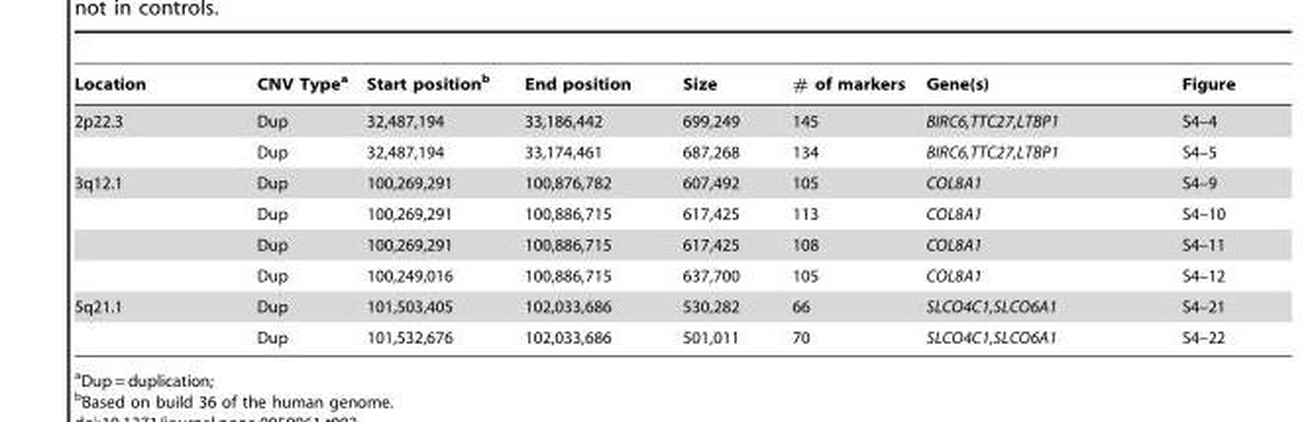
<table><thead><tr><td>Location</td><td>CNV Type<sup>a</sup></td><td>Start position<sup>b</sup></td><td>End position</td><td>Size</td><td># of markers</td><td>Gene(s)</td><td>Figure</td></tr></thead><tbody><tr><td rowspan="2">2p22.3</td><td>Dup</td><td>32,487,194</td><td>33,186,442</td><td>699,249</td><td>145</td><td>BIRC6,TTC27,LTBP1</td><td>S4–4</td></tr><tr><td>Dup</td><td>32,487,194</td><td>33,174,461</td><td>687,268</td><td>134</td><td>BIRC6,TTC27,LTBP1</td><td>S4–5</td></tr><tr><td rowspan="4">3q12.1</td><td>Dup</td><td>100,269,291</td><td>100,876,782</td><td>607,492</td><td>105</td><td>COL8A1</td><td>S4–9</td></tr><tr><td>Dup</td><td>100,269,291</td><td>100,886,715</td><td>617,425</td><td>113</td><td>COL8A1</td><td>S4–10</td></tr><tr><td>Dup</td><td>100,269,291</td><td>100,886,715</td><td>617,425</td><td>108</td><td>COL8A1</td><td>S4–11</td></tr><tr><td>Dup</td><td>100,249,016</td><td>100,886,715</td><td>637,700</td><td>105</td><td>COL8A1</td><td>S4–12</td></tr><tr><td rowspan="2">5q21.1</td><td>Dup</td><td>101,503,405</td><td>102,033,686</td><td>530,282</td><td>66</td><td>SLCO4C1,SLCO6A1</td><td>S4–21</td></tr><tr><td>Dup</td><td>101,532,676</td><td>102,033,686</td><td>501,011</td><td>70</td><td>SLCO4C1,SLCO6A1</td><td>S4–22</td></tr></tbody></table>